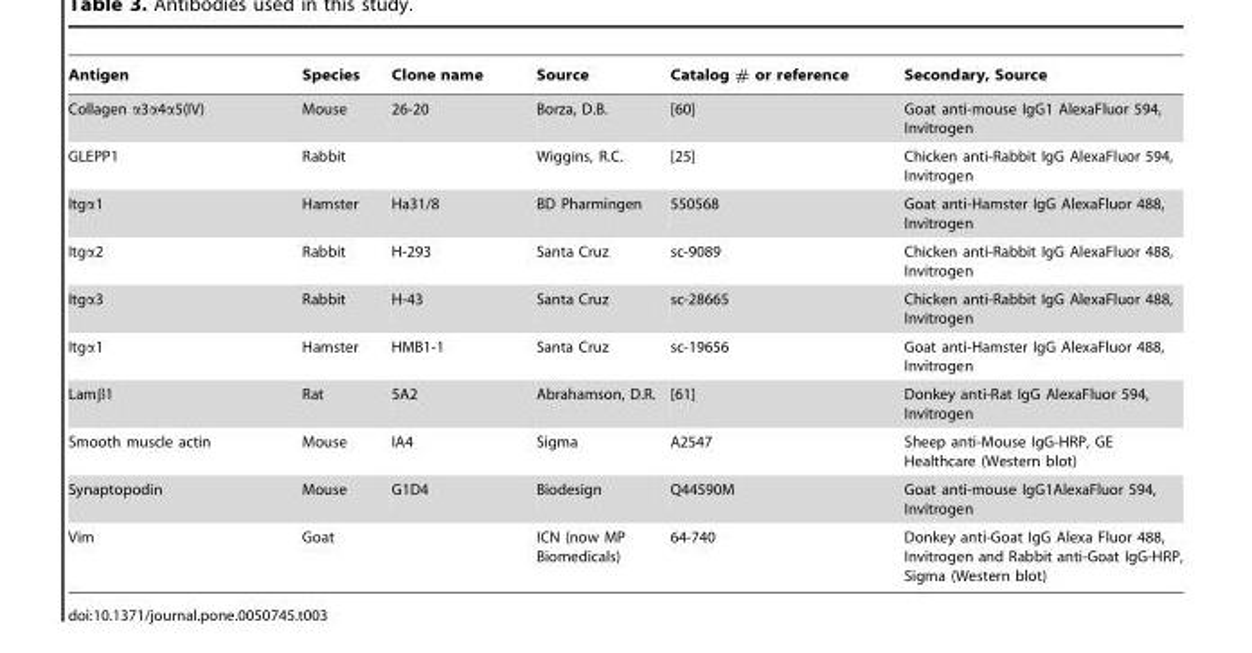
<table><thead><tr><td>Antigen</td><td>Species</td><td>Clone name</td><td>Source</td><td>Catalog # or reference</td><td>Secondary, Source</td></tr></thead><tbody><tr><td>Collagen α3α4α5(IV)</td><td>Mouse</td><td>26-20</td><td>Borza, D.B.</td><td>[60]</td><td>Goat anti-mouse IgG1 AlexaFluor 594, Invitrogen</td></tr><tr><td>GLEPP1</td><td>Rabbit</td><td></td><td>Wiggins, R.C.</td><td>[25]</td><td>Chicken anti-Rabbit IgG AlexaFluor 594, Invitrogen</td></tr><tr><td>Itgα1</td><td>Hamster</td><td>Ha31/8</td><td>BD Pharmingen</td><td>550568</td><td>Goat anti-Hamster IgG AlexaFluor 488, Invitrogen</td></tr><tr><td>Itgα2</td><td>Rabbit</td><td>H-293</td><td>Santa Cruz</td><td>sc-9089</td><td>Chicken anti-Rabbit IgG AlexaFluor 488, Invitrogen</td></tr><tr><td>Itgα3</td><td>Rabbit</td><td>H-43</td><td>Santa Cruz</td><td>sc-28665</td><td>Chicken anti-Rabbit IgG AlexaFluor 488, Invitrogen</td></tr><tr><td>Itgα1</td><td>Hamster</td><td>HMB1-1</td><td>Santa Cruz</td><td>sc-19656</td><td>Goat anti-Hamster IgG AlexaFluor 488, Invitrogen</td></tr><tr><td>Lamβ1</td><td>Rat</td><td>5A2</td><td>Abrahamson, D.R.</td><td>[61]</td><td>Donkey anti-Rat IgG AlexaFluor 594, Invitrogen</td></tr><tr><td>Smooth muscle actin</td><td>Mouse</td><td>IA4</td><td>Sigma</td><td>A2547</td><td>Sheep anti-Mouse IgG-HRP, GE Healthcare (Western blot)</td></tr><tr><td>Synaptopodin</td><td>Mouse</td><td>G1D4</td><td>Biodesign</td><td>Q44590M</td><td>Goat anti-mouse IgG1AlexaFluor 594, Invitrogen</td></tr><tr><td>Vim</td><td>Goat</td><td></td><td>ICN (now MP Biomedicals)</td><td>64-740</td><td>Donkey anti-Goat IgG Alexa Fluor 488, Invitrogen and Rabbit anti-Goat IgG-HRP, Sigma (Western blot)</td></tr></tbody></table>